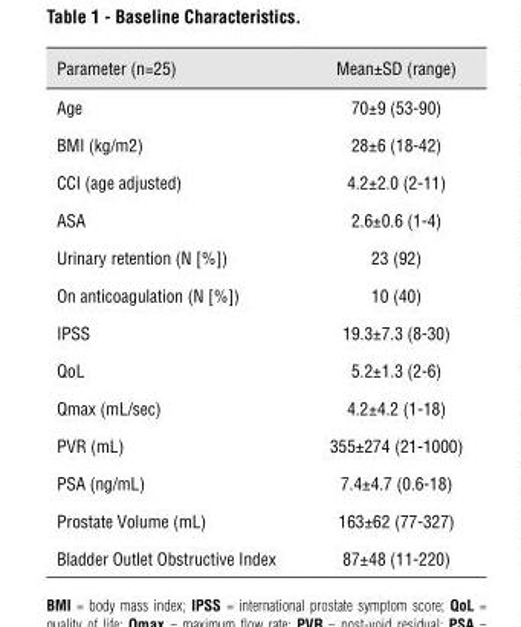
<table><thead><tr><td>Parameter (n=25)</td><td>Mean±SD (range)</td></tr></thead><tbody><tr><td>Age</td><td>70±9 (53-90)</td></tr><tr><td>BMI (kg/m2)</td><td>28±6 (18-42)</td></tr><tr><td>CCI (age adjusted)</td><td>4.2±2.0 (2-11)</td></tr><tr><td>ASA</td><td>2.6±0.6 (1-4)</td></tr><tr><td>Urinary retention (N [%])</td><td>23 (92)</td></tr><tr><td>On anticoagulation (N [%])</td><td>10 (40)</td></tr><tr><td>IPSS</td><td>19.3±7.3 (8-30)</td></tr><tr><td>QoL</td><td>5.2±1.3 (2-6)</td></tr><tr><td>Qmax (mL/sec)</td><td>4.2±4.2 (1-18)</td></tr><tr><td>PVR (mL)</td><td>355±274 (21-1000)</td></tr><tr><td>PSA (ng/mL)</td><td>7.4±4.7 (0.6-18)</td></tr><tr><td>Prostate Volume (mL)</td><td>163±62 (77-327)</td></tr><tr><td>Bladder Outlet Obstructive Index</td><td>87±48 (11-220)</td></tr></tbody></table>